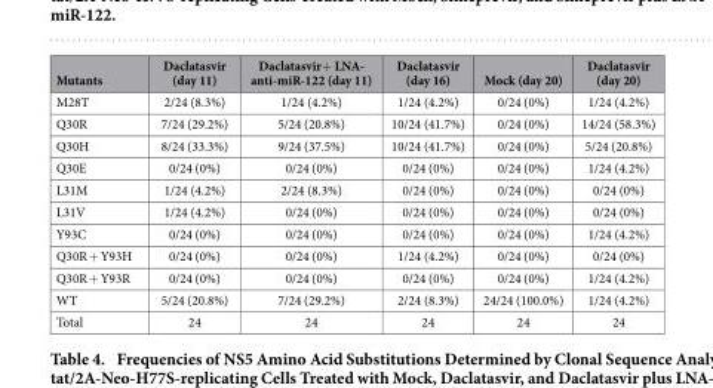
<table><thead><tr><td>Mutants</td><td>Daclatasvir (day 11)</td><td>Daclatasvir+ LNA- anti-miR-122 (day 11)</td><td>Daclatasvir (day 16)</td><td>Mock (day 20)</td><td>Daclatasvir (day 20)</td></tr></thead><tbody><tr><td>M28T</td><td>2/24 (8.3%)</td><td>1/24 (4.2%)</td><td>1/24 (4.2%)</td><td>0/24 (0%)</td><td>1/24 (4.2%)</td></tr><tr><td>Q30R</td><td>7/24 (29.2%)</td><td>5/24 (20.8%)</td><td>10/24 (41.7%)</td><td>0/24 (0%)</td><td>14/24 (58.3%)</td></tr><tr><td>Q30H</td><td>8/24 (33.3%)</td><td>9/24 (37.5%)</td><td>10/24 (41.7%)</td><td>0/24 (0%)</td><td>5/24 (20.8%)</td></tr><tr><td>Q30E</td><td>0/24 (0%)</td><td>0/24 (0%)</td><td>0/24 (0%)</td><td>0/24 (0%)</td><td>1/24 (4.2%)</td></tr><tr><td>L31M</td><td>1/24 (4.2%)</td><td>2/24 (8.3%)</td><td>0/24 (0%)</td><td>0/24 (0%)</td><td>0/24 (0%)</td></tr><tr><td>L31V</td><td>1/24 (4.2%)</td><td>0/24 (0%)</td><td>0/24 (0%)</td><td>0/24 (0%)</td><td>0/24 (0%)</td></tr><tr><td>Y93C</td><td>0/24 (0%)</td><td>0/24 (0%)</td><td>0/24 (0%)</td><td>0/24 (0%)</td><td>1/24 (4.2%)</td></tr><tr><td>Q30R + Y93H</td><td>0/24 (0%)</td><td>0/24 (0%)</td><td>1/24 (4.2%)</td><td>0/24 (0%)</td><td>0/24 (0%)</td></tr><tr><td>Q30R + Y93R</td><td>0/24 (0%)</td><td>0/24 (0%)</td><td>0/24 (0%)</td><td>0/24 (0%)</td><td>1/24 (4.2%)</td></tr><tr><td>WT</td><td>5/24 (20.8%)</td><td>7/24 (29.2%)</td><td>2/24 (8.3%)</td><td>24/24 (100.0%)</td><td>1/24 (4.2%)</td></tr><tr><td>Total</td><td>24</td><td>24</td><td>24</td><td>24</td><td>24</td></tr></tbody></table>